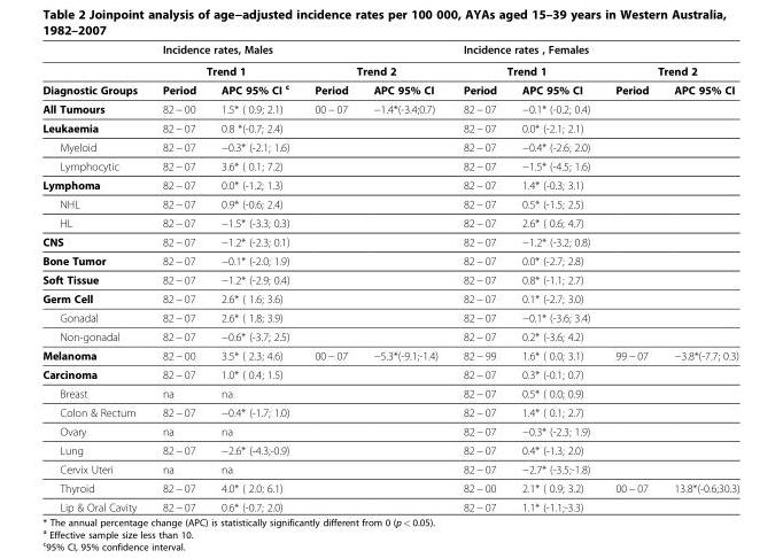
<table><thead><tr><td rowspan="3">Diagnostic Groups</td><td colspan="4">Incidence rates, Males</td><td colspan="4">Incidence rates , Females</td></tr><tr><td colspan="2">Trend 1</td><td colspan="2">Trend 2</td><td colspan="2">Trend 1</td><td colspan="2">Trend 2</td></tr><tr><td>Period</td><td>APC 95% CI <sup>c</sup></td><td>Period</td><td>APC 95% CI</td><td>Period</td><td>APC 95% CI</td><td>Period</td><td>APC 95% CI</td></tr></thead><tbody><tr><td>All Tumours</td><td>82 − 00</td><td>1.5* ( 0.9; 2.1)</td><td>00 − 07</td><td>−1.4*(-3.4;0.7)</td><td>82 − 07</td><td>−0.1* (-0.2; 0.4)</td><td></td><td></td></tr><tr><td>Leukaemia</td><td>82 − 07</td><td>0.8 *(-0.7; 2.4)</td><td></td><td></td><td>82 − 07</td><td>0.0* (-2.1; 2.1)</td><td></td><td></td></tr><tr><td>Myeloid</td><td>82 − 07</td><td>−0.3* (-2.1; 1.6)</td><td></td><td></td><td>82 − 07</td><td>−0.4* (-2.6; 2.0)</td><td></td><td></td></tr><tr><td>Lymphocytic</td><td>82 − 07</td><td>3.6* ( 0.1; 7.2)</td><td></td><td></td><td>82 − 07</td><td>−1.5* (-4.5; 1.6)</td><td></td><td></td></tr><tr><td>Lymphoma</td><td>82 − 07</td><td>0.0* (-1.2; 1.3)</td><td></td><td></td><td>82 − 07</td><td>1.4* (-0.3; 3.1)</td><td></td><td></td></tr><tr><td>NHL</td><td>82 − 07</td><td>0.9* (-0.6; 2.4)</td><td></td><td></td><td>82 − 07</td><td>0.5* (-1.5; 2.5)</td><td></td><td></td></tr><tr><td>HL</td><td>82 − 07</td><td>−1.5* (-3.3; 0.3)</td><td></td><td></td><td>82 − 07</td><td>2.6* ( 0.6; 4.7)</td><td></td><td></td></tr><tr><td>CNS</td><td>82 − 07</td><td>−1.2* (-2.3; 0.1)</td><td></td><td></td><td>82 − 07</td><td>−1.2* (-3.2; 0.8)</td><td></td><td></td></tr><tr><td>Bone Tumor</td><td>82 − 07</td><td>−0.1* (-2.0; 1.9)</td><td></td><td></td><td>82 − 07</td><td>0.0* (-2.7; 2.8)</td><td></td><td></td></tr><tr><td>Soft Tissue</td><td>82 − 07</td><td>−1.2* (-2.9; 0.4)</td><td></td><td></td><td>82 − 07</td><td>0.8* (-1.1; 2.7)</td><td></td><td></td></tr><tr><td>Germ Cell</td><td>82 − 07</td><td>2.6* ( 1.6; 3.6)</td><td></td><td></td><td>82 − 07</td><td>0.1* (-2.7; 3.0)</td><td></td><td></td></tr><tr><td>Gonadal</td><td>82 − 07</td><td>2.6* ( 1.8; 3.9)</td><td></td><td></td><td>82 − 07</td><td>−0.1* (-3.6; 3.4)</td><td></td><td></td></tr><tr><td>Non-gonadal</td><td>82 − 07</td><td>−0.6* (-3.7; 2.5)</td><td></td><td></td><td>82 − 07</td><td>0.2* (-3.6; 4.2)</td><td></td><td></td></tr><tr><td>Melanoma</td><td>82 − 00</td><td>3.5* ( 2.3; 4.6)</td><td>00 − 07</td><td>−5.3*(-9.1;-1.4)</td><td>82 − 99</td><td>1.6* ( 0.0; 3.1)</td><td>99 − 07</td><td>−3.8*(-7.7; 0.3)</td></tr><tr><td>Carcinoma</td><td>82 − 07</td><td>1.0* ( 0.4; 1.5)</td><td></td><td></td><td>82 − 07</td><td>0.3* (-0.1; 0.7)</td><td></td><td></td></tr><tr><td>Breast</td><td>na</td><td>na</td><td></td><td></td><td>82 − 07</td><td>0.5* ( 0.0; 0.9)</td><td></td><td></td></tr><tr><td>Colon &amp; Rectum</td><td>82 − 07</td><td>−0.4* (-1.7; 1.0)</td><td></td><td></td><td>82 − 07</td><td>1.4* ( 0.1; 2.7)</td><td></td><td></td></tr><tr><td>Ovary</td><td>na</td><td>na</td><td></td><td></td><td>82 − 07</td><td>−0.3* (-2.3; 1.9)</td><td></td><td></td></tr><tr><td>Lung</td><td>82 − 07</td><td>−2.6* (-4.3;-0.9)</td><td></td><td></td><td>82 − 07</td><td>0.4* (-1.3; 2.0)</td><td></td><td></td></tr><tr><td>Cervix Uteri</td><td>na</td><td>na</td><td></td><td></td><td>82 − 07</td><td>−2.7* (-3.5;-1.8)</td><td></td><td></td></tr><tr><td>Thyroid</td><td>82 − 07</td><td>4.0* ( 2.0; 6.1)</td><td></td><td></td><td>82 − 00</td><td>2.1* ( 0.9; 3.2)</td><td>00 − 07</td><td>13.8*(-0.6;30.3)</td></tr><tr><td>Lip &amp; Oral Cavity</td><td>82 − 07</td><td>0.6* (-0.7; 2.0)</td><td></td><td></td><td>82 − 07</td><td>1.1* (-1.1;-3.3)</td><td></td><td></td></tr></tbody></table>